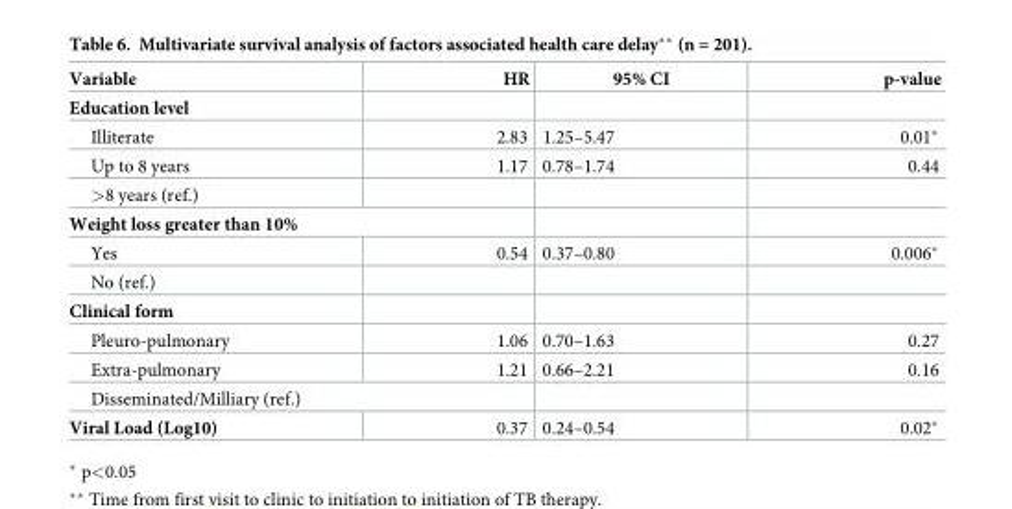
<table><thead><tr><td>Variable</td><td>HR</td><td>95% CI</td><td>p-value</td></tr></thead><tbody><tr><td colspan="4">Education level</td></tr><tr><td>Illiterate</td><td>2.83</td><td>1.25–5.47</td><td>0.01*</td></tr><tr><td>Up to 8 years</td><td>1.17</td><td>0.78–1.74</td><td>0.44</td></tr><tr><td colspan="4">&gt;8 years (ref.)</td></tr><tr><td colspan="4">Weight loss greater than 10%</td></tr><tr><td>Yes</td><td>0.54</td><td>0.37–0.80</td><td>0.006*</td></tr><tr><td colspan="4">No (ref.)</td></tr><tr><td colspan="4">Clinical form</td></tr><tr><td>Pleuro-pulmonary</td><td>1.06</td><td>0.70–1.63</td><td>0.27</td></tr><tr><td>Extra-pulmonary</td><td>1.21</td><td>0.66–2.21</td><td>0.16</td></tr><tr><td colspan="4">Disseminated/Milliary (ref.)</td></tr><tr><td>Viral Load (Log10)</td><td>0.37</td><td>0.24–0.54</td><td>0.02*</td></tr></tbody></table>